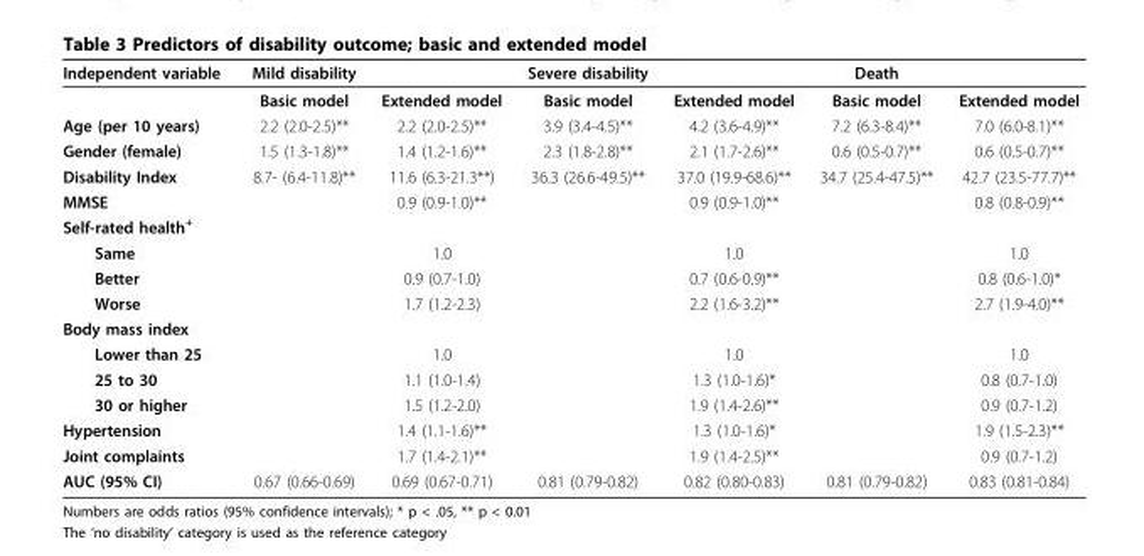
<table><thead><tr><td>Independent variable</td><td>Mild disability</td><td></td><td>Severe disability</td><td></td><td>Death</td><td></td></tr></thead><tbody><tr><td></td><td>Basic model</td><td>Extended model</td><td>Basic model</td><td>Extended model</td><td>Basic model</td><td>Extended model</td></tr><tr><td>Age (per 10 years)</td><td>2.2 (2.0-2.5)**</td><td>2.2 (2.0-2.5)**</td><td>3.9 (3.4-4.5)**</td><td>4.2 (3.6-4.9)**</td><td>7.2 (6.3-8.4)**</td><td>7.0 (6.0-8.1)**</td></tr><tr><td>Gender (female)</td><td>1.5 (1.3-1.8)**</td><td>1.4 (1.2-1.6)**</td><td>2.3 (1.8-2.8)**</td><td>2.1 (1.7-2.6)**</td><td>0.6 (0.5-0.7)**</td><td>0.6 (0.5-0.7)**</td></tr><tr><td>Disability Index</td><td>8.7- (6.4-11.8)**</td><td>11.6 (6.3-21.3**)</td><td>36.3 (26.6-49.5)**</td><td>37.0 (19.9-68.6)**</td><td>34.7 (25.4-47.5)**</td><td>42.7 (23.5-77.7)**</td></tr><tr><td>MMSE</td><td></td><td>0.9 (0.9-1.0)**</td><td></td><td>0.9 (0.9-1.0)**</td><td></td><td>0.8 (0.8-0.9)**</td></tr><tr><td colspan="7">Self-rated health<sup>+</sup></td></tr><tr><td>Same</td><td></td><td>1.0</td><td></td><td>1.0</td><td></td><td>1.0</td></tr><tr><td>Better</td><td></td><td>0.9 (0.7-1.0)</td><td></td><td>0.7 (0.6-0.9)**</td><td></td><td>0.8 (0.6-1.0)*</td></tr><tr><td>Worse</td><td></td><td>1.7 (1.2-2.3)</td><td></td><td>2.2 (1.6-3.2)**</td><td></td><td>2.7 (1.9-4.0)**</td></tr><tr><td colspan="7">Body mass index</td></tr><tr><td>Lower than 25</td><td></td><td>1.0</td><td></td><td>1.0</td><td></td><td>1.0</td></tr><tr><td>25 to 30</td><td></td><td>1.1 (1.0-1.4)</td><td></td><td>1.3 (1.0-1.6)*</td><td></td><td>0.8 (0.7-1.0)</td></tr><tr><td>30 or higher</td><td></td><td>1.5 (1.2-2.0)</td><td></td><td>1.9 (1.4-2.6)**</td><td></td><td>0.9 (0.7-1.2)</td></tr><tr><td>Hypertension</td><td></td><td>1.4 (1.1-1.6)**</td><td></td><td>1.3 (1.0-1.6)*</td><td></td><td>1.9 (1.5-2.3)**</td></tr><tr><td>Joint complaints</td><td></td><td>1.7 (1.4-2.1)**</td><td></td><td>1.9 (1.4-2.5)**</td><td></td><td>0.9 (0.7-1.2)</td></tr><tr><td>AUC (95% CI)</td><td>0.67 (0.66-0.69)</td><td>0.69 (0.67-0.71)</td><td>0.81 (0.79-0.82)</td><td>0.82 (0.80-0.83)</td><td>0.81 (0.79-0.82)</td><td>0.83 (0.81-0.84)</td></tr></tbody></table>